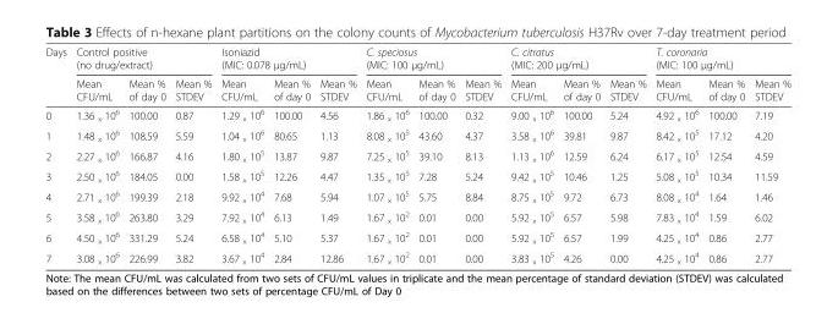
<table><thead><tr><td rowspan="2">Days</td><td colspan="3">Control positive (no drug/extract)</td><td colspan="3">Isoniazid (MIC: 0.078 μg/mL)</td><td colspan="3">C. speciosus (MIC: 100 μg/mL)</td><td colspan="3">C. citratus (MIC: 200 μg/mL)</td><td colspan="3">T. coronaria (MIC: 100 μg/mL)</td></tr><tr><td>Mean CFU/mL</td><td>Mean % of day 0</td><td>Mean % STDEV</td><td>Mean CFU/mL</td><td>Mean % of day 0</td><td>Mean % STDEV</td><td>Mean CFU/mL</td><td>Mean % of day 0</td><td>Mean % STDEV</td><td>Mean CFU/mL</td><td>Mean % of day 0</td><td>Mean % STDEV</td><td>Mean CFU/mL</td><td>Mean % of day 0</td><td>Mean % STDEV</td></tr></thead><tbody><tr><td>0</td><td>1.36 <sub>x</sub> 10<sup>6</sup></td><td>100.00</td><td>0.87</td><td>1.29 <sub>x</sub> 10<sup>6</sup></td><td>100.00</td><td>4.56</td><td>1.86 <sub>x</sub> 10<sup>6</sup></td><td>100.00</td><td>0.32</td><td>9.00 <sub>x</sub> 10<sup>6</sup></td><td>100.00</td><td>5.24</td><td>4.92 <sub>x</sub> 10<sup>6</sup></td><td>100.00</td><td>7.19</td></tr><tr><td>1</td><td>1.48 <sub>x</sub> 10<sup>6</sup></td><td>108.59</td><td>5.59</td><td>1.04 <sub>x</sub> 10<sup>6</sup></td><td>80.65</td><td>1.13</td><td>8.08 <sub>x</sub> 10<sup>5</sup></td><td>43.60</td><td>4.37</td><td>3.58 <sub>x</sub> 10<sup>6</sup></td><td>39.81</td><td>9.87</td><td>8.42 <sub>x</sub> 10<sup>5</sup></td><td>17.12</td><td>4.20</td></tr><tr><td>2</td><td>2.27 <sub>x</sub> 10<sup>6</sup></td><td>166.87</td><td>4.16</td><td>1.80 <sub>x</sub> 10<sup>5</sup></td><td>13.87</td><td>9.87</td><td>7.25 <sub>x</sub> 10<sup>5</sup></td><td>39.10</td><td>8.13</td><td>1.13 <sub>x</sub> 10<sup>6</sup></td><td>12.59</td><td>6.24</td><td>6.17 <sub>x</sub> 10<sup>5</sup></td><td>12.54</td><td>4.59</td></tr><tr><td>3</td><td>2.50 <sub>x</sub> 10<sup>6</sup></td><td>184.05</td><td>0.00</td><td>1.58 <sub>x</sub> 10<sup>5</sup></td><td>12.26</td><td>4.47</td><td>1.35 <sub>x</sub> 10<sup>5</sup></td><td>7.28</td><td>5.24</td><td>9.42 <sub>x</sub> 10<sup>5</sup></td><td>10.46</td><td>1.25</td><td>5.08 <sub>x</sub> 10<sup>5</sup></td><td>10.34</td><td>11.59</td></tr><tr><td>4</td><td>2.71 <sub>x</sub> 10<sup>6</sup></td><td>199.39</td><td>2.18</td><td>9.92 <sub>x</sub> 10<sup>4</sup></td><td>7.68</td><td>5.94</td><td>1.07 <sub>x</sub> 10<sup>5</sup></td><td>5.75</td><td>8.84</td><td>8.75 <sub>x</sub> 10<sup>5</sup></td><td>9.72</td><td>6.73</td><td>8.08 <sub>x</sub> 10<sup>4</sup></td><td>1.64</td><td>1.46</td></tr><tr><td>5</td><td>3.58 <sub>x</sub> 10<sup>6</sup></td><td>263.80</td><td>3.29</td><td>7.92 <sub>x</sub> 10<sup>4</sup></td><td>6.13</td><td>1.49</td><td>1.67 <sub>x</sub> 10<sup>2</sup></td><td>0.01</td><td>0.00</td><td>5.92 <sub>x</sub> 10<sup>5</sup></td><td>6.57</td><td>5.98</td><td>7.83 <sub>x</sub> 10<sup>4</sup></td><td>1.59</td><td>6.02</td></tr><tr><td>6</td><td>4.50 <sub>x</sub> 10<sup>6</sup></td><td>331.29</td><td>5.24</td><td>6.58 <sub>x</sub> 10<sup>4</sup></td><td>5.10</td><td>5.37</td><td>1.67 <sub>x</sub> 10<sup>2</sup></td><td>0.01</td><td>0.00</td><td>5.92 <sub>x</sub> 10<sup>5</sup></td><td>6.57</td><td>1.99</td><td>4.25 <sub>x</sub> 10<sup>4</sup></td><td>0.86</td><td>2.77</td></tr><tr><td>7</td><td>3.08 <sub>x</sub> 10<sup>6</sup></td><td>226.99</td><td>3.82</td><td>3.67 <sub>x</sub> 10<sup>4</sup></td><td>2.84</td><td>12.86</td><td>1.67 <sub>x</sub> 10<sup>2</sup></td><td>0.01</td><td>0.00</td><td>3.83 <sub>x</sub> 10<sup>5</sup></td><td>4.26</td><td>0.00</td><td>4.25 <sub>x</sub> 10<sup>4</sup></td><td>0.86</td><td>2.77</td></tr></tbody></table>